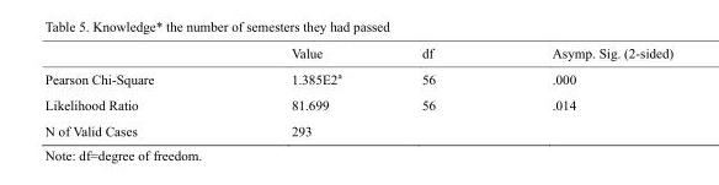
<table><thead><tr><td></td><td>Value</td><td>df</td><td>Asymp. Sig. (2-sided)</td></tr></thead><tbody><tr><td>Pearson Chi-Square</td><td>1.385E2<sup>a</sup></td><td>56</td><td>.000</td></tr><tr><td>Likelihood Ratio</td><td>81.699</td><td>56</td><td>.014</td></tr><tr><td>N of Valid Cases</td><td>293</td><td></td><td></td></tr></tbody></table>